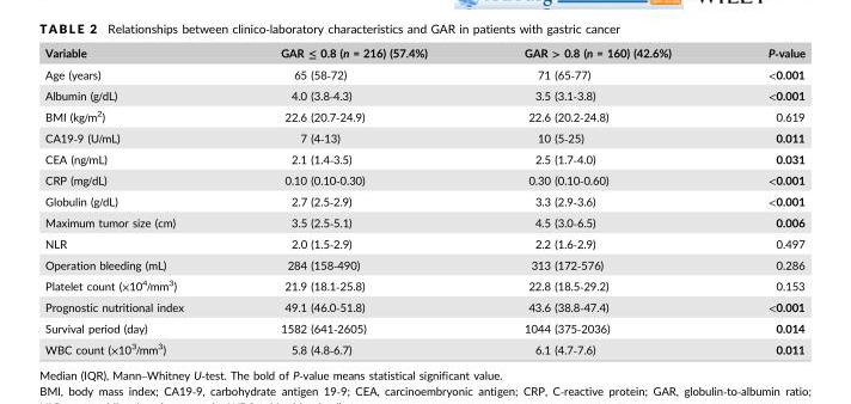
<table><thead><tr><td>Variable</td><td>GAR ≤ 0.8 (n = 216) (57.4%)</td><td>GAR &gt; 0.8 (n = 160) (42.6%)</td><td>P‐value</td></tr></thead><tbody><tr><td>Age (years)</td><td>65 (58‐72)</td><td>71 (65‐77)</td><td>&lt;0.001</td></tr><tr><td>Albumin (g/dL)</td><td>4.0 (3.8‐4.3)</td><td>3.5 (3.1‐3.8)</td><td>&lt;0.001</td></tr><tr><td>BMI (kg/m<sup>2</sup>)</td><td>22.6 (20.7‐24.9)</td><td>22.6 (20.2‐24.8)</td><td>0.619</td></tr><tr><td>CA19‐9 (U/mL)</td><td>7 (4‐13)</td><td>10 (5‐25)</td><td>0.011</td></tr><tr><td>CEA (ng/mL)</td><td>2.1 (1.4‐3.5)</td><td>2.5 (1.7‐4.0)</td><td>0.031</td></tr><tr><td>CRP (mg/dL)</td><td>0.10 (0.10‐0.30)</td><td>0.30 (0.10‐0.60)</td><td>&lt;0.001</td></tr><tr><td>Globulin (g/dL)</td><td>2.7 (2.5‐2.9)</td><td>3.3 (2.9‐3.6)</td><td>&lt;0.001</td></tr><tr><td>Maximum tumor size (cm)</td><td>3.5 (2.5‐5.1)</td><td>4.5 (3.0‐6.5)</td><td>0.006</td></tr><tr><td>NLR</td><td>2.0 (1.5‐2.9)</td><td>2.2 (1.6‐2.9)</td><td>0.497</td></tr><tr><td>Operation bleeding (mL)</td><td>284 (158‐490)</td><td>313 (172‐576)</td><td>0.286</td></tr><tr><td>Platelet count (×10<sup>4</sup>/mm<sup>3</sup>)</td><td>21.9 (18.1‐25.8)</td><td>22.8 (18.5‐29.2)</td><td>0.153</td></tr><tr><td>Prognostic nutritional index</td><td>49.1 (46.0‐51.8)</td><td>43.6 (38.8‐47.4)</td><td>&lt;0.001</td></tr><tr><td>Survival period (day)</td><td>1582 (641‐2605)</td><td>1044 (375‐2036)</td><td>0.014</td></tr><tr><td>WBC count (×10<sup>3</sup>/mm<sup>3</sup>)</td><td>5.8 (4.8‐6.7)</td><td>6.1 (4.7‐7.6)</td><td>0.011</td></tr></tbody></table>